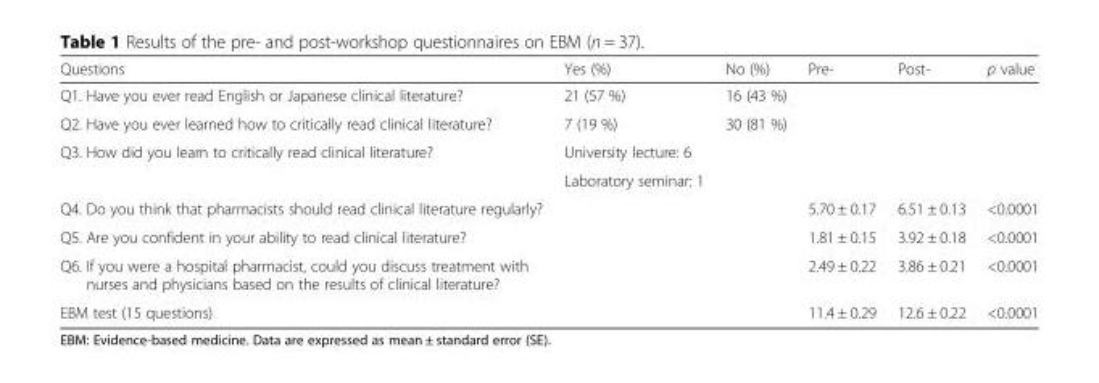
<table><thead><tr><td>Questions</td><td>Yes (%)</td><td>No (%)</td><td>Pre-</td><td>Post-</td><td>p value</td></tr></thead><tbody><tr><td>Q1. Have you ever read English or Japanese clinical literature?</td><td>21 (57 %)</td><td>16 (43 %)</td><td></td><td></td><td></td></tr><tr><td>Q2. Have you ever learned how to critically read clinical literature?</td><td>7 (19 %)</td><td>30 (81 %)</td><td></td><td></td><td></td></tr><tr><td rowspan="2">Q3. How did you learn to critically read clinical literature?</td><td>University lecture: 6</td><td rowspan="2"></td><td rowspan="2"></td><td rowspan="2"></td><td rowspan="2"></td></tr><tr><td>Laboratory seminar: 1</td></tr><tr><td>Q4. Do you think that pharmacists should read clinical literature regularly?</td><td></td><td></td><td>5.70 ± 0.17</td><td>6.51 ± 0.13</td><td>&lt;0.0001</td></tr><tr><td>Q5. Are you confident in your ability to read clinical literature?</td><td></td><td></td><td>1.81 ± 0.15</td><td>3.92 ± 0.18</td><td>&lt;0.0001</td></tr><tr><td>Q6. If you were a hospital pharmacist, could you discuss treatment with nurses and physicians based on the results of clinical literature?</td><td></td><td></td><td>2.49 ± 0.22</td><td>3.86 ± 0.21</td><td>&lt;0.0001</td></tr><tr><td>EBM test (15 questions)</td><td></td><td></td><td>11.4 ± 0.29</td><td>12.6 ± 0.22</td><td>&lt;0.0001</td></tr></tbody></table>